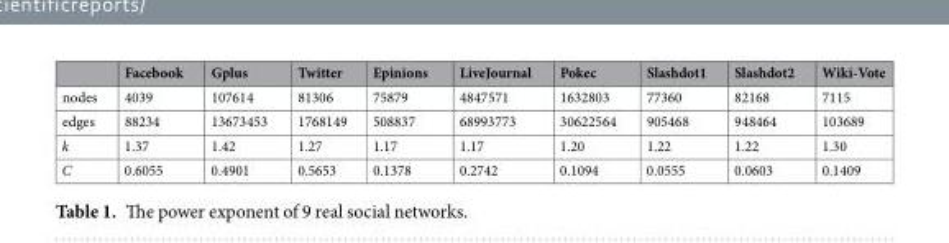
<table><thead><tr><td></td><td>Facebook</td><td>Gplus</td><td>Twitter</td><td>Epinions</td><td>LiveJournal</td><td>Pokec</td><td>Slashdot1</td><td>Slashdot2</td><td>Wiki-Vote</td></tr></thead><tbody><tr><td>nodes</td><td>4039</td><td>107614</td><td>81306</td><td>75879</td><td>4847571</td><td>1632803</td><td>77360</td><td>82168</td><td>7115</td></tr><tr><td>edges</td><td>88234</td><td>13673453</td><td>1768149</td><td>508837</td><td>68993773</td><td>30622564</td><td>905468</td><td>948464</td><td>103689</td></tr><tr><td>k</td><td>1.37</td><td>1.42</td><td>1.27</td><td>1.17</td><td>1.17</td><td>1.20</td><td>1.22</td><td>1.22</td><td>1.30</td></tr><tr><td>C</td><td>0.6055</td><td>0.4901</td><td>0.5653</td><td>0.1378</td><td>0.2742</td><td>0.1094</td><td>0.0555</td><td>0.0603</td><td>0.1409</td></tr></tbody></table>